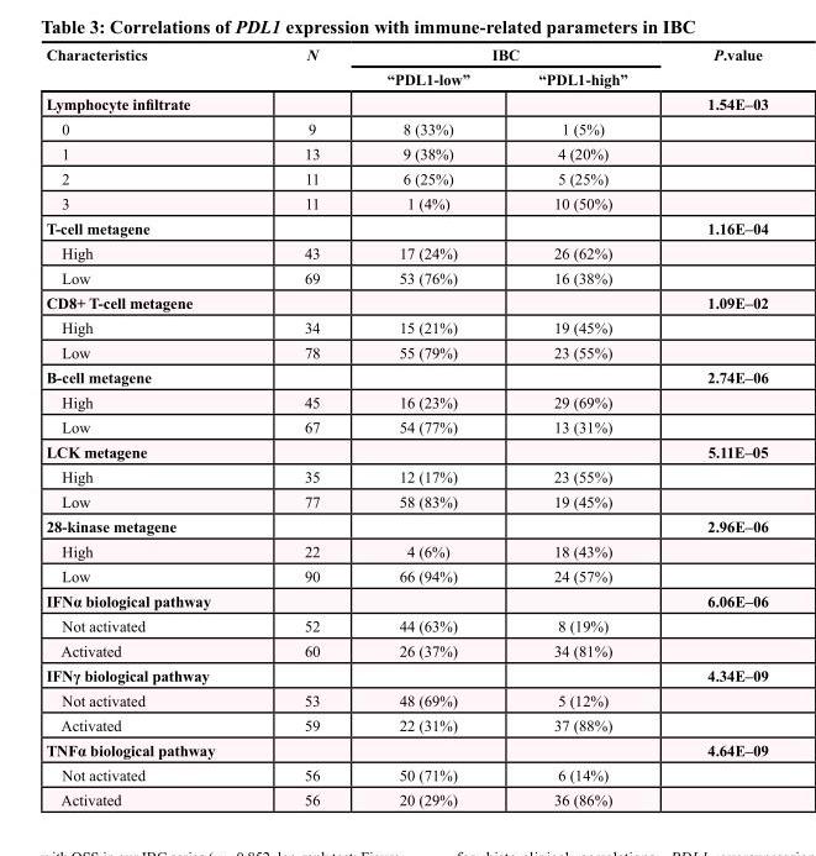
<table><thead><tr><td rowspan="2">Characteristics</td><td rowspan="2">N</td><td colspan="2">IBC</td><td rowspan="2">P.value</td></tr><tr><td>“PDL1-low”</td><td>“PDL1-high”</td></tr></thead><tbody><tr><td>Lymphocyte infiltrate</td><td></td><td></td><td></td><td>1.54E–03</td></tr><tr><td>0</td><td>9</td><td>8 (33%)</td><td>1 (5%)</td><td></td></tr><tr><td>1</td><td>13</td><td>9 (38%)</td><td>4 (20%)</td><td></td></tr><tr><td>2</td><td>11</td><td>6 (25%)</td><td>5 (25%)</td><td></td></tr><tr><td>3</td><td>11</td><td>1 (4%)</td><td>10 (50%)</td><td></td></tr><tr><td>T-cell metagene</td><td></td><td></td><td></td><td>1.16E–04</td></tr><tr><td>High</td><td>43</td><td>17 (24%)</td><td>26 (62%)</td><td></td></tr><tr><td>Low</td><td>69</td><td>53 (76%)</td><td>16 (38%)</td><td></td></tr><tr><td>CD8+ T-cell metagene</td><td></td><td></td><td></td><td>1.09E–02</td></tr><tr><td>High</td><td>34</td><td>15 (21%)</td><td>19 (45%)</td><td></td></tr><tr><td>Low</td><td>78</td><td>55 (79%)</td><td>23 (55%)</td><td></td></tr><tr><td>B-cell metagene</td><td></td><td></td><td></td><td>2.74E–06</td></tr><tr><td>High</td><td>45</td><td>16 (23%)</td><td>29 (69%)</td><td></td></tr><tr><td>Low</td><td>67</td><td>54 (77%)</td><td>13 (31%)</td><td></td></tr><tr><td>LCK metagene</td><td></td><td></td><td></td><td>5.11E–05</td></tr><tr><td>High</td><td>35</td><td>12 (17%)</td><td>23 (55%)</td><td></td></tr><tr><td>Low</td><td>77</td><td>58 (83%)</td><td>19 (45%)</td><td></td></tr><tr><td>28-kinase metagene</td><td></td><td></td><td></td><td>2.96E–06</td></tr><tr><td>High</td><td>22</td><td>4 (6%)</td><td>18 (43%)</td><td></td></tr><tr><td>Low</td><td>90</td><td>66 (94%)</td><td>24 (57%)</td><td></td></tr><tr><td>IFNα biological pathway</td><td></td><td></td><td></td><td>6.06E–06</td></tr><tr><td>Not activated</td><td>52</td><td>44 (63%)</td><td>8 (19%)</td><td></td></tr><tr><td>Activated</td><td>60</td><td>26 (37%)</td><td>34 (81%)</td><td></td></tr><tr><td>IFNγ biological pathway</td><td></td><td></td><td></td><td>4.34E–09</td></tr><tr><td>Not activated</td><td>53</td><td>48 (69%)</td><td>5 (12%)</td><td></td></tr><tr><td>Activated</td><td>59</td><td>22 (31%)</td><td>37 (88%)</td><td></td></tr><tr><td>TNFα biological pathway</td><td></td><td></td><td></td><td>4.64E–09</td></tr><tr><td>Not activated</td><td>56</td><td>50 (71%)</td><td>6 (14%)</td><td></td></tr><tr><td>Activated</td><td>56</td><td>20 (29%)</td><td>36 (86%)</td><td></td></tr></tbody></table>